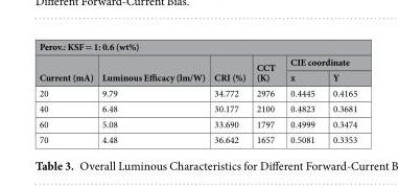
<table><thead><tr><td colspan="6">Perov.: KSF = 1: 0.6 (wt%)</td></tr><tr><td rowspan="2">Current (mA)</td><td rowspan="2">Luminous Efficacy (lm/W)</td><td rowspan="2">CRI (%)</td><td rowspan="2">CCT (K)</td><td colspan="2">CIE coordinate</td></tr><tr><td>x</td><td>Y</td></tr></thead><tbody><tr><td>20</td><td>9.79</td><td>34.772</td><td>2976</td><td>0.4445</td><td>0.4165</td></tr><tr><td>40</td><td>6.48</td><td>30.177</td><td>2100</td><td>0.4823</td><td>0.3681</td></tr><tr><td>60</td><td>5.08</td><td>33.690</td><td>1797</td><td>0.4999</td><td>0.3474</td></tr><tr><td>70</td><td>4.48</td><td>36.642</td><td>1657</td><td>0.5081</td><td>0.3353</td></tr></tbody></table>